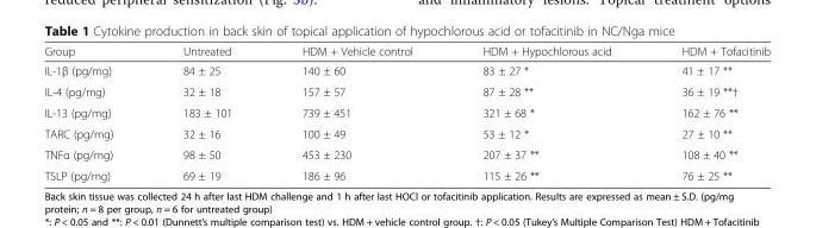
<table><thead><tr><td>Group</td><td>Untreated</td><td>HDM + Vehicle control</td><td>HDM + Hypochlorous acid</td><td>HDM + Tofacitinib</td></tr></thead><tbody><tr><td>IL-1β (pg/mg)</td><td>84 ± 25</td><td>140 ± 60</td><td>83 ± 27 *</td><td>41 ± 17 **</td></tr><tr><td>IL-4 (pg/mg)</td><td>32 ± 18</td><td>157 ± 57</td><td>87 ± 28 **</td><td>36 ± 19 **†</td></tr><tr><td>IL-13 (pg/mg)</td><td>183 ± 101</td><td>739 ± 451</td><td>321 ± 68 *</td><td>162 ± 76 **</td></tr><tr><td>TARC (pg/mg)</td><td>32 ± 16</td><td>100 ± 49</td><td>53 ± 12 *</td><td>27 ± 10 **</td></tr><tr><td>TNFα (pg/mg)</td><td>98 ± 50</td><td>453 ± 230</td><td>207 ± 37 **</td><td>108 ± 40 **</td></tr><tr><td>TSLP (pg/mg)</td><td>69 ± 19</td><td>186 ± 96</td><td>115 ± 26 **</td><td>76 ± 25 **</td></tr></tbody></table>